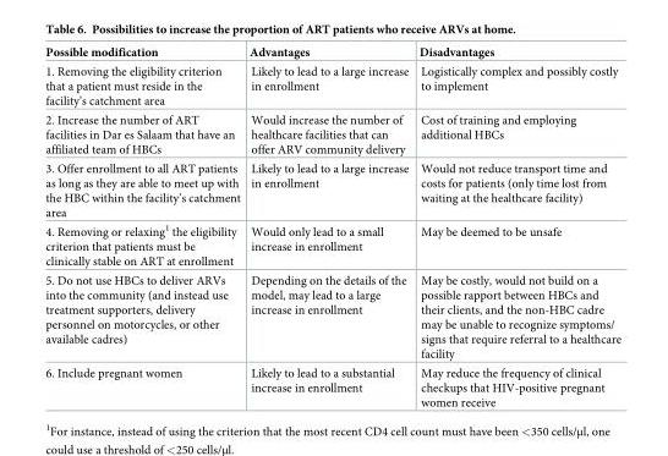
<table><thead><tr><td>Possible modification</td><td>Advantages</td><td>Disadvantages</td></tr></thead><tbody><tr><td>1. Removing the eligibility criterion that a patient must reside in the facility’s catchment area</td><td>Likely to lead to a large increase in enrollment</td><td>Logistically complex and possibly costly to implement</td></tr><tr><td>2. Increase the number of ART facilities in Dar es Salaam that have an affiliated team of HBCs</td><td>Would increase the number of healthcare facilities that can offer ARV community delivery</td><td>Cost of training and employing additional HBCs</td></tr><tr><td>3. Offer enrollment to all ART patients as long as they are able to meet up with the HBC within the facility’s catchment area</td><td>Likely to lead to a large increase in enrollment</td><td>Would not reduce transport time and costs for patients (only time lost from waiting at the healthcare facility)</td></tr><tr><td>4. Removing or relaxing<sup>1</sup> the eligibility criterion that patients must be clinically stable on ART at enrollment</td><td>Would only lead to a small increase in enrollment</td><td>May be deemed to be unsafe</td></tr><tr><td>5. Do not use HBCs to deliver ARVs into the community (and instead use treatment supporters, delivery personnel on motorcycles, or other available cadres)</td><td>Depending on the details of the model, may lead to a large increase in enrollment</td><td>May be costly, would not build on a possible rapport between HBCs and their clients, and the non-HBC cadre may be unable to recognize symptoms/ signs that require referral to a healthcare facility</td></tr><tr><td>6. Include pregnant women</td><td>Likely to lead to a substantial increase in enrollment</td><td>May reduce the frequency of clinical checkups that HIV-positive pregnant women receive</td></tr></tbody></table>